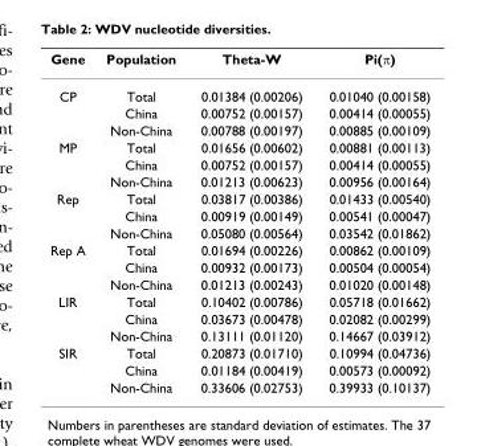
<table><thead><tr><td>Gene</td><td>Population</td><td>Theta-W</td><td>Pi(π)</td></tr></thead><tbody><tr><td rowspan="3">CP</td><td>Total</td><td>0.01384 (0.00206)</td><td>0.01040 (0.00158)</td></tr><tr><td>China</td><td>0.00752 (0.00157)</td><td>0.00414 (0.00055)</td></tr><tr><td>Non-China</td><td>0.00788 (0.00197)</td><td>0.00885 (0.00109)</td></tr><tr><td rowspan="3">MP</td><td>Total</td><td>0.01656 (0.00602)</td><td>0.00881 (0.00113)</td></tr><tr><td>China</td><td>0.00752 (0.00157)</td><td>0.00414 (0.00055)</td></tr><tr><td>Non-China</td><td>0.01213 (0.00623)</td><td>0.00956 (0.00164)</td></tr><tr><td rowspan="3">Rep</td><td>Total</td><td>0.03817 (0.00386)</td><td>0.01433 (0.00540)</td></tr><tr><td>China</td><td>0.00919 (0.00149)</td><td>0.00541 (0.00047)</td></tr><tr><td>Non-China</td><td>0.05080 (0.00564)</td><td>0.03542 (0.01862)</td></tr><tr><td rowspan="3">Rep A</td><td>Total</td><td>0.01694 (0.00226)</td><td>0.00862 (0.00109)</td></tr><tr><td>China</td><td>0.00932 (0.00173)</td><td>0.00504 (0.00054)</td></tr><tr><td>Non-China</td><td>0.01213 (0.00243)</td><td>0.01020 (0.00148)</td></tr><tr><td rowspan="3">LIR</td><td>Total</td><td>0.10402 (0.00786)</td><td>0.05718 (0.01662)</td></tr><tr><td>China</td><td>0.03673 (0.00478)</td><td>0.02082 (0.00299)</td></tr><tr><td>Non-China</td><td>0.13111 (0.01120)</td><td>0.14667 (0.03912)</td></tr><tr><td rowspan="3">SIR</td><td>Total</td><td>0.20873 (0.01710)</td><td>0.10994 (0.04736)</td></tr><tr><td>China</td><td>0.01184 (0.00419)</td><td>0.00573 (0.00092)</td></tr><tr><td>Non-China</td><td>0.33606 (0.02753)</td><td>0.39933 (0.10137)</td></tr></tbody></table>